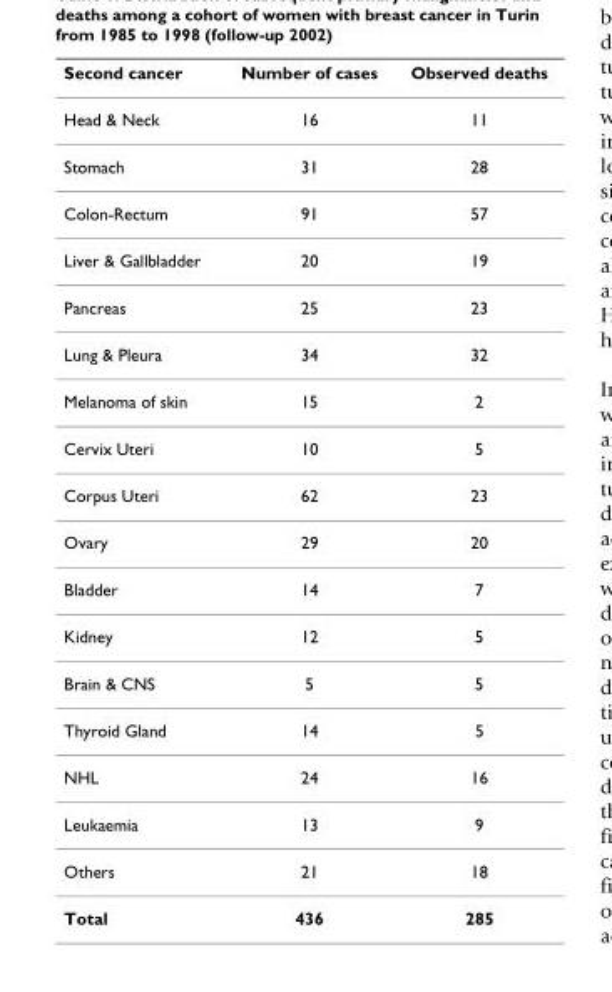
<table><thead><tr><td>Second cancer</td><td>Number of cases</td><td>Observed deaths</td></tr></thead><tbody><tr><td>Head &amp; Neck</td><td>16</td><td>11</td></tr><tr><td>Stomach</td><td>31</td><td>28</td></tr><tr><td>Colon-Rectum</td><td>91</td><td>57</td></tr><tr><td>Liver &amp; Gallbladder</td><td>20</td><td>19</td></tr><tr><td>Pancreas</td><td>25</td><td>23</td></tr><tr><td>Lung &amp; Pleura</td><td>34</td><td>32</td></tr><tr><td>Melanoma of skin</td><td>15</td><td>2</td></tr><tr><td>Cervix Uteri</td><td>10</td><td>5</td></tr><tr><td>Corpus Uteri</td><td>62</td><td>23</td></tr><tr><td>Ovary</td><td>29</td><td>20</td></tr><tr><td>Bladder</td><td>14</td><td>7</td></tr><tr><td>Kidney</td><td>12</td><td>5</td></tr><tr><td>Brain &amp; CNS</td><td>5</td><td>5</td></tr><tr><td>Thyroid Gland</td><td>14</td><td>5</td></tr><tr><td>NHL</td><td>24</td><td>16</td></tr><tr><td>Leukaemia</td><td>13</td><td>9</td></tr><tr><td>Others</td><td>21</td><td>18</td></tr><tr><td>Total</td><td>436</td><td>285</td></tr></tbody></table>